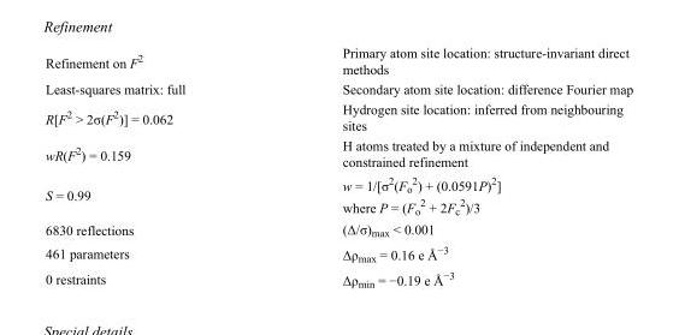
<table><tbody><tr><td>Refinement on F<sup>2</sup></td><td>Primary atom site location: structure-invariant direct methods</td></tr><tr><td>Least-squares matrix: full</td><td>Secondary atom site location: difference Fourier map</td></tr><tr><td>R[F<sup>2</sup> &gt; 2σ(F<sup>2</sup>)] = 0.062</td><td>Hydrogen site location: inferred from neighbouring sites</td></tr><tr><td>wR(F<sup>2</sup>) = 0.159</td><td>H atoms treated by a mixture of independent and constrained refinement</td></tr><tr><td>S = 0.99</td><td>w = 1/[σ<sup>2</sup>(F<sub>o</sub> <sup>2</sup>) + (0.0591P)<sup>2</sup>] where P = (F<sub>o</sub> <sup>2</sup> + 2F<sub>c</sub> <sup>2</sup>)/3</td></tr><tr><td>6830 reflections</td><td>(Δ/σ)<sub>max</sub> &lt; 0.001</td></tr><tr><td>461 parameters</td><td>Δρ<sub>max</sub> = 0.16 e Å<sup>−3</sup></td></tr><tr><td>0 restraints</td><td>Δρ<sub>min</sub> = −0.19 e Å<sup>−3</sup></td></tr></tbody></table>